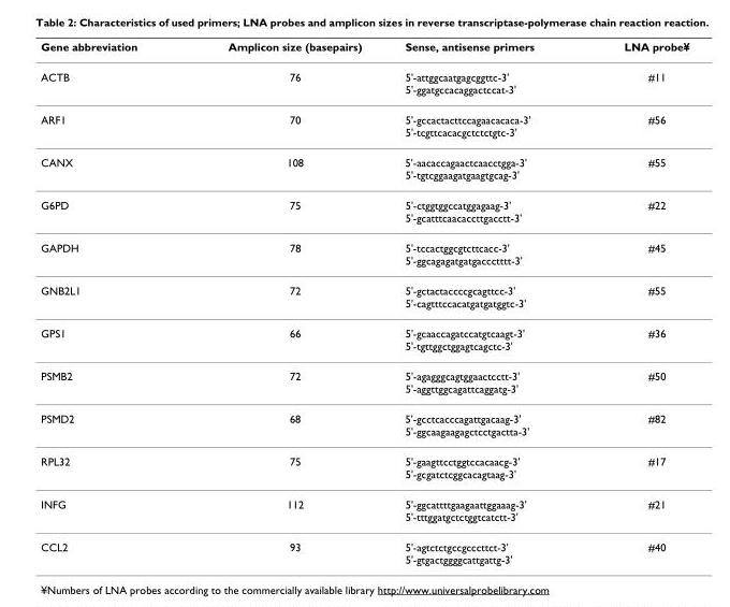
<table><thead><tr><td>Gene abbreviation</td><td>Amplicon size (basepairs)</td><td>Sense, antisense primers</td><td>LNA probe¥</td></tr></thead><tbody><tr><td>ACTB</td><td>76</td><td>5&#x27;-attggcaatgagcggttc-3&#x27; 5&#x27;-ggatgccacaggactccat-3&#x27;</td><td>#11</td></tr><tr><td>ARF1</td><td>70</td><td>5&#x27;-gccactacttccagaacacaca-3&#x27; 5&#x27;-tcgttcacacgctctctgtc-3&#x27;</td><td>#56</td></tr><tr><td>CANX</td><td>108</td><td>5&#x27;-aacaccagaactcaacctgga-3&#x27; 5&#x27;-tgtcggaagatgaagtgcag-3&#x27;</td><td>#55</td></tr><tr><td>G6PD</td><td>75</td><td>5&#x27;-ctggtggccatggagaag-3&#x27; 5&#x27;-gcatttcaacaccttgacctt-3&#x27;</td><td>#22</td></tr><tr><td>GAPDH</td><td>78</td><td>5&#x27;-tccactggcgtcttcacc-3&#x27; 5&#x27;-ggcagagatgatgaccctttt-3&#x27;</td><td>#45</td></tr><tr><td>GNB2L1</td><td>72</td><td>5&#x27;-gctactaccccgcagttcc-3&#x27; 5&#x27;-cagtttccacatgatgatggtc-3&#x27;</td><td>#55</td></tr><tr><td>GPS1</td><td>66</td><td>5&#x27;-gcaaccagatccatgtcaagt-3&#x27; 5&#x27;-tgttggctggagtcagctc-3&#x27;</td><td>#36</td></tr><tr><td>PSMB2</td><td>72</td><td>5&#x27;-agagggcagtggaactcctt-3&#x27; 5&#x27;-aggttggcagattcaggatg-3&#x27;</td><td>#50</td></tr><tr><td>PSMD2</td><td>68</td><td>5&#x27;-gcctcacccagattgacaag-3&#x27; 5&#x27;-ggcaagaagagctcctgactta-3&#x27;</td><td>#82</td></tr><tr><td>RPL32</td><td>75</td><td>5&#x27;-gaagttcctggtccacaacg-3&#x27; 5&#x27;-gcgatctcggcacagtaag-3&#x27;</td><td>#17</td></tr><tr><td>INFG</td><td>112</td><td>5&#x27;-ggcattttgaagaattggaaag-3&#x27; 5&#x27;-tttggatgctctggtcatctt-3&#x27;</td><td>#21</td></tr><tr><td>CCL2</td><td>93</td><td>5&#x27;-agtctctgccgcccttct-3&#x27; 5&#x27;-gtgactggggcattgattg-3&#x27;</td><td>#40</td></tr></tbody></table>